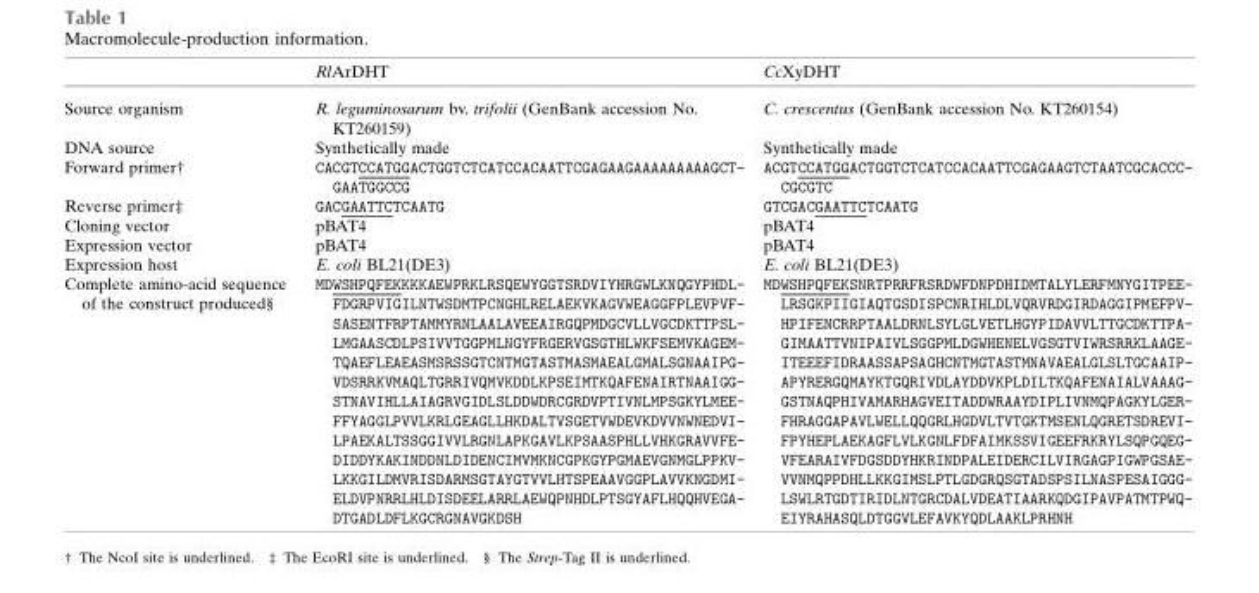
<table><thead><tr><td></td><td>RlArDHT</td><td>CcXyDHT</td></tr></thead><tbody><tr><td>Source organism</td><td>R. leguminosarum bv. trifolii (GenBank accession No. KT260159)</td><td>C. crescentus (GenBank accession No. KT260154)</td></tr><tr><td>DNA source</td><td>Synthetically made</td><td>Synthetically made</td></tr><tr><td>Forward primer†</td><td>CACGTCCATGGACTGGTCTCATCCACAATTCGAGAAGAAAAAAAAAGCT- GAATGGCCG</td><td>ACGTCCATGGACTGGTCTCATCCACAATTCGAGAAGTCTAATCGCACCC- CGCGTC</td></tr><tr><td>Reverse primer‡</td><td>GACGAATTCTCAATG</td><td>GTCGACGAATTCTCAATG</td></tr><tr><td>Cloning vector</td><td>pBAT4</td><td>pBAT4</td></tr><tr><td>Expression vector</td><td>pBAT4</td><td>pBAT4</td></tr><tr><td>Expression host</td><td>E. coli BL21(DE3)</td><td>E. coli BL21(DE3)</td></tr><tr><td>Complete amino-acid sequence of the construct produced§</td><td>MDWSHPQFEKKKKAEWPRKLRSQEWYGGTSRDVIYHRGWLKNQGYPHDL- FDGRPVIGILNTWSDMTPCNGHLRELAEKVKAGVWEAGGFPLEVPVF- SASENTFRPTAMMYRNLAALAVEEAIRGQPMDGCVLLVGCDKTTPSL- LMGAASCDLPSIVVTGGPMLNGYFRGERVGSGTHLWKFSEMVKAGEM- TQAEFLEAEASMSRSSGTCNTMGTASTMASMAEALGMALSGNAAIPG- VDSRRKVMAQLTGRRIVQMVKDDLKPSEIMTKQAFENAIRTNAAIGG- STNAVIHLLAIAGRVGIDLSLDDWDRCGRDVPTIVNLMPSGKYLMEE- FFYAGGLPVVLKRLGEAGLLHKDALTVSGETVWDEVKDVVNWNEDVI- LPAEKALTSSGGIVVLRGNLAPKGAVLKPSAASPHLLVHKGRAVVFE- DIDDYKAKINDDNLDIDENCIMVMKNCGPKGYPGMAEVGNMGLPPKV- LKKGILDMVRISDARMSGTAYGTVVLHTSPEAAVGGPLAVVKNGDMI- ELDVPNRRLHLDISDEELARRLAEWQPNHDLPTSGYAFLHQQHVEGA- DTGADLDFLKGCRGNAVGKDSH</td><td>MDWSHPQFEKSNRTPRRFRSRDWFDNPDHIDMTALYLERFMNYGITPEE- LRSGKPIIGIAQTGSDISPCNRIHLDLVQRVRDGIRDAGGIPMEFPV- HPIFENCRRPTAALDRNLSYLGLVETLHGYPIDAVVLTTGCDKTTPA- GIMAATTVNIPAIVLSGGPMLDGWHENELVGSGTVIWRSRRKLAAGE- ITEEEFIDRAASSAPSAGHCNTMGTASTMNAVAEALGLSLTGCAAIP- APYRERGQMAYKTGQRIVDLAYDDVKPLDILTKQAFENAIALVAAAG- GSTNAQPHIVAMARHAGVEITADDWRAAYDIPLIVNMQPAGKYLGER- FHRAGGAPAVLWELLQQGRLHGDVLTVTGKTMSENLQGRETSDREVI- FPYHEPLAEKAGFLVLKGNLFDFAIMKSSVIGEEFRKRYLSQPGQEG- VFEARAIVFDGSDDYHKRINDPALEIDERCILVIRGAGPIGWPGSAE- VVNMQPPDHLLKKGIMSLPTLGDGRQSGTADSPSILNASPESAIGGG- LSWLRTGDTIRIDLNTGRCDALVDEATIAARKQDGIPAVPATMTPWQ- EIYRAHASQLDTGGVLEFAVKYQDLAAKLPRHNH</td></tr></tbody></table>